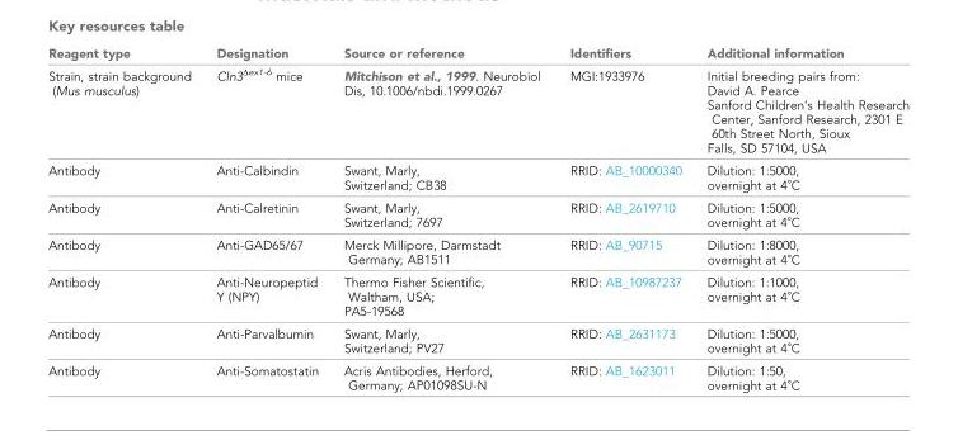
<table><thead><tr><td>Reagent type</td><td>Designation</td><td>Source or reference</td><td>Identifiers</td><td>Additional information</td></tr></thead><tbody><tr><td>Strain, strain background (Mus musculus)</td><td>Cln3<sup>Δex1-6</sup> mice</td><td>Mitchison et al., 1999. Neurobiol Dis, 10.1006/nbdi.1999.0267</td><td>MGI:1933976</td><td>Initial breeding pairs from: David A. Pearce Sanford Children’s Health Research Center, Sanford Research, 2301 E 60th Street North, Sioux Falls, SD 57104, USA</td></tr><tr><td>Antibody</td><td>Anti-Calbindin</td><td>Swant, Marly, Switzerland; CB38</td><td>RRID: AB_10000340</td><td>Dilution: 1:5000, overnight at 4˚C</td></tr><tr><td>Antibody</td><td>Anti-Calretinin</td><td>Swant, Marly, Switzerland; 7697</td><td>RRID: AB_2619710</td><td>Dilution: 1:5000, overnight at 4˚C</td></tr><tr><td>Antibody</td><td>Anti-GAD65/67</td><td>Merck Millipore, Darmstadt Germany; AB1511</td><td>RRID: AB_90715</td><td>Dilution: 1:8000, overnight at 4˚C</td></tr><tr><td>Antibody</td><td>Anti-Neuropeptid Y (NPY)</td><td>Thermo Fisher Scientific, Waltham, USA; PA5-19568</td><td>RRID: AB_10987237</td><td>Dilution: 1:1000, overnight at 4˚C</td></tr><tr><td>Antibody</td><td>Anti-Parvalbumin</td><td>Swant, Marly, Switzerland; PV27</td><td>RRID: AB_2631173</td><td>Dilution: 1:5000, overnight at 4˚C</td></tr><tr><td>Antibody</td><td>Anti-Somatostatin</td><td>Acris Antibodies, Herford, Germany; AP01098SU-N</td><td>RRID: AB_1623011</td><td>Dilution: 1:50, overnight at 4˚C</td></tr></tbody></table>